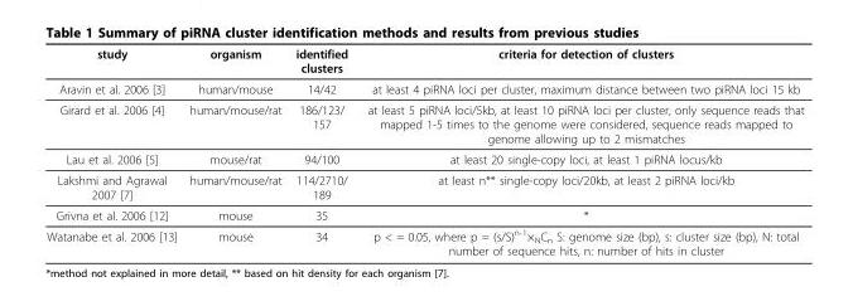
<table><thead><tr><td>study</td><td>organism</td><td>identified clusters</td><td>criteria for detection of clusters</td></tr></thead><tbody><tr><td>Aravin et al. 2006 [3]</td><td>human/mouse</td><td>14/42</td><td>at least 4 piRNA loci per cluster, maximum distance between two piRNA loci 15 kb</td></tr><tr><td>Girard et al. 2006 [4]</td><td>human/mouse/rat</td><td>186/123/ 157</td><td>at least 5 piRNA loci/5kb, at least 10 piRNA loci per cluster, only sequence reads that mapped 1-5 times to the genome were considered, sequence reads mapped to genome allowing up to 2 mismatches</td></tr><tr><td>Lau et al. 2006 [5]</td><td>mouse/rat</td><td>94/100</td><td>at least 20 single-copy loci, at least 1 piRNA locus/kb</td></tr><tr><td>Lakshmi and Agrawal 2007 [7]</td><td>human/mouse/rat</td><td>114/2710/ 189</td><td>at least n** single-copy loci/20kb, at least 2 piRNA loci/kb</td></tr><tr><td>Grivna et al. 2006 [12]</td><td>mouse</td><td>35</td><td>*</td></tr><tr><td>Watanabe et al. 2006 [13]</td><td>mouse</td><td>34</td><td>p &lt; = 0.05, where p = (s/S)<sup>n-1</sup>×<sub>N</sub>C<sub>n</sub> S: genome size (bp), s: cluster size (bp), N: total number of sequence hits, n: number of hits in cluster</td></tr></tbody></table>